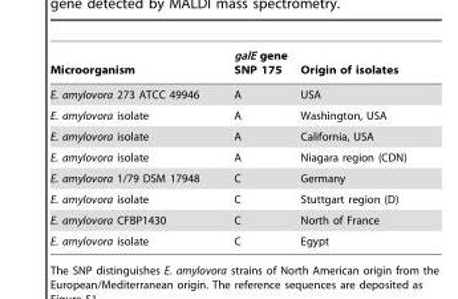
<table><thead><tr><td>Microorganism</td><td>galE gene SNP 175</td><td>Origin of isolates</td></tr></thead><tbody><tr><td>E. amylovora 273 ATCC 49946</td><td>A</td><td>USA</td></tr><tr><td>E. amylovora isolate</td><td>A</td><td>Washington, USA</td></tr><tr><td>E. amylovora isolate</td><td>A</td><td>California, USA</td></tr><tr><td>E. amylovora isolate</td><td>A</td><td>Niagara region (CDN)</td></tr><tr><td>E. amylovora 1/79 DSM 17948</td><td>C</td><td>Germany</td></tr><tr><td>E. amylovora isolate</td><td>C</td><td>Stuttgart region (D)</td></tr><tr><td>E. amylovora CFBP1430</td><td>C</td><td>North of France</td></tr><tr><td>E. amylovora isolate</td><td>C</td><td>Egypt</td></tr></tbody></table>